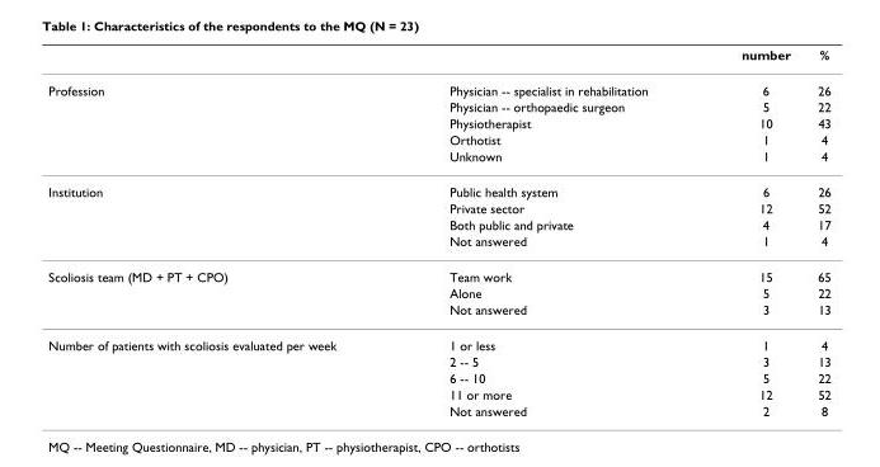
<table><thead><tr><td></td><td></td><td>number</td><td>%</td></tr></thead><tbody><tr><td rowspan="5">Profession</td><td>Physician -- specialist in rehabilitation</td><td>6</td><td>26</td></tr><tr><td>Physician -- orthopaedic surgeon</td><td>5</td><td>22</td></tr><tr><td>Physiotherapist</td><td>10</td><td>43</td></tr><tr><td>Orthotist</td><td>1</td><td>4</td></tr><tr><td>Unknown</td><td>1</td><td>4</td></tr><tr><td rowspan="4">Institution</td><td>Public health system</td><td>6</td><td>26</td></tr><tr><td>Private sector</td><td>12</td><td>52</td></tr><tr><td>Both public and private</td><td>4</td><td>17</td></tr><tr><td>Not answered</td><td>1</td><td>4</td></tr><tr><td rowspan="3">Scoliosis team (MD + PT + CPO)</td><td>Team work</td><td>15</td><td>65</td></tr><tr><td>Alone</td><td>5</td><td>22</td></tr><tr><td>Not answered</td><td>3</td><td>13</td></tr><tr><td rowspan="5">Number of patients with scoliosis evaluated per week</td><td>1 or less</td><td>1</td><td>4</td></tr><tr><td>2 -- 5</td><td>3</td><td>13</td></tr><tr><td>6 -- 10</td><td>5</td><td>22</td></tr><tr><td>11 or more</td><td>12</td><td>52</td></tr><tr><td>Not answered</td><td>2</td><td>8</td></tr></tbody></table>